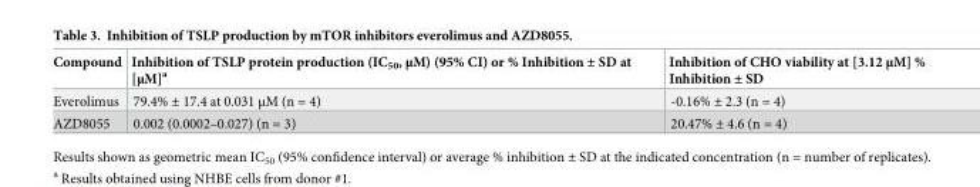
<table><thead><tr><td>Compound</td><td>Inhibition of TSLP protein production (IC<sub>50</sub>, μM) (95% CI) or % Inhibition ± SD at [μM]<sup>a</sup></td><td>Inhibition of CHO viability at [3.12 μM] % Inhibition ± SD</td></tr></thead><tbody><tr><td>Everolimus</td><td>79.4% ± 17.4 at 0.031 μM (n = 4)</td><td>-0.16% ± 2.3 (n = 4)</td></tr><tr><td>AZD8055</td><td>0.002 (0.0002–0.027) (n = 3)</td><td>20.47% ± 4.6 (n = 4)</td></tr></tbody></table>